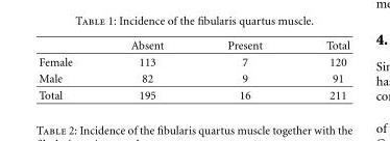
<table><thead><tr><td></td><td>Absent</td><td>Present</td><td>Total</td></tr></thead><tbody><tr><td>Female</td><td>113</td><td>7</td><td>120</td></tr><tr><td>Male</td><td>82</td><td>9</td><td>91</td></tr><tr><td>Total</td><td>195</td><td>16</td><td>211</td></tr></tbody></table>